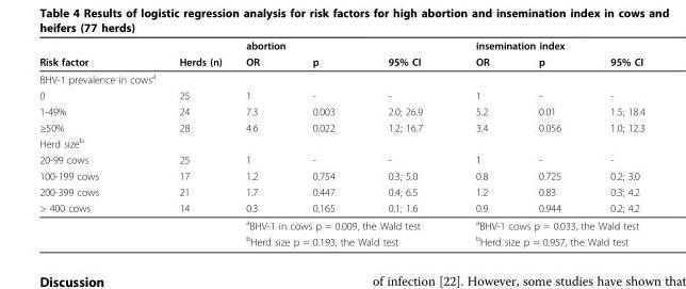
<table><thead><tr><td rowspan="2">Risk factor</td><td rowspan="2">Herds (n)</td><td colspan="3">abortion</td><td colspan="3">insemination index</td></tr><tr><td>OR</td><td>p</td><td>95% CI</td><td>OR</td><td>p</td><td>95% CI</td></tr></thead><tbody><tr><td colspan="8">BHV-1 prevalence in cows<sup>a</sup></td></tr><tr><td>0</td><td>25</td><td>1</td><td>-</td><td>-</td><td>1</td><td>-</td><td>-</td></tr><tr><td>1-49%</td><td>24</td><td>7.3</td><td>0.003</td><td>2.0; 26.9</td><td>5.2</td><td>0.01</td><td>1.5; 18.4</td></tr><tr><td>≥50%</td><td>28</td><td>4.6</td><td>0.022</td><td>1.2; 16.7</td><td>3.4</td><td>0.056</td><td>1.0; 12.3</td></tr><tr><td colspan="8">Herd size<sup>b</sup></td></tr><tr><td>20-99 cows</td><td>25</td><td>1</td><td>-</td><td>-</td><td>1</td><td>-</td><td>-</td></tr><tr><td>100-199 cows</td><td>17</td><td>1.2</td><td>0.754</td><td>0.3; 5.0</td><td>0.8</td><td>0.725</td><td>0.2; 3.0</td></tr><tr><td>200-399 cows</td><td>21</td><td>1.7</td><td>0.447</td><td>0.4; 6.5</td><td>1.2</td><td>0.83</td><td>0.3; 4.2</td></tr><tr><td rowspan="3">&gt; 400 cows</td><td>14</td><td>0.3</td><td>0.165</td><td>0.1; 1.6</td><td>0.9</td><td>0.944</td><td>0.2; 4.2</td></tr><tr><td></td><td colspan="3"><sup>a</sup>BHV-1 in cows p = 0.009, the Wald test</td><td colspan="3"><sup>a</sup>BHV-1 cows p = 0.033, the Wald test</td></tr><tr><td></td><td colspan="3"><sup>b</sup>Herd size p = 0.193, the Wald test</td><td colspan="3"><sup>b</sup>Herd size p = 0.957, the Wald test</td></tr></tbody></table>